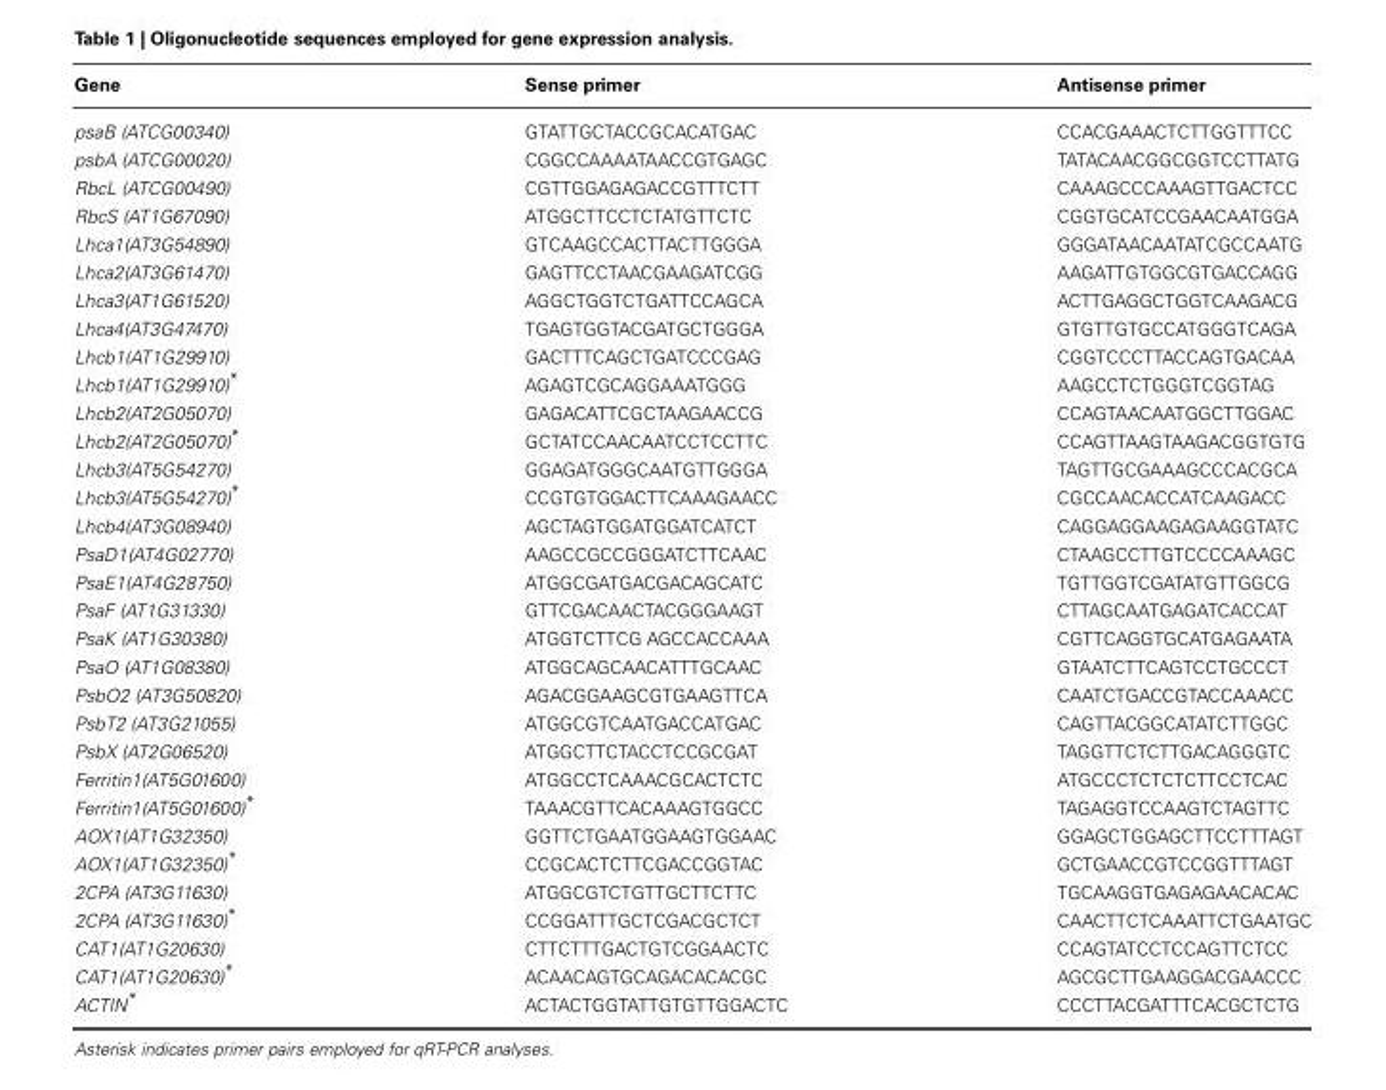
<table><thead><tr><td>Gene</td><td>Sense primer</td><td>Antisense primer</td></tr></thead><tbody><tr><td>psaB (ATCG00340)</td><td>GTATTGCTACCGCACATGAC</td><td>CCACGAAACTCTTGGTTTCC</td></tr><tr><td>psbA (ATCG00020)</td><td>CGGCCAAAATAACCGTGAGC</td><td>TATACAACGGCGGTCCTTATG</td></tr><tr><td>RbcL (ATCG00490)</td><td>CGTTGGAGAGACCGTTTCTT</td><td>CAAAGCCCAAAGTTGACTCC</td></tr><tr><td>RbcS (AT1G67090)</td><td>ATGGCTTCCTCTATGTTCTC</td><td>CGGTGCATCCGAACAATGGA</td></tr><tr><td>Lhca1(AT3G54890)</td><td>GTCAAGCCACTTACTTGGGA</td><td>GGGATAACAATATCGCCAATG</td></tr><tr><td>Lhca2(AT3G61470)</td><td>GAGTTCCTAACGAAGATCGG</td><td>AAGATTGTGGCGTGACCAGG</td></tr><tr><td>Lhca3(AT1G61520)</td><td>AGGCTGGTCTGATTCCAGCA</td><td>ACTTGAGGCTGGTCAAGACG</td></tr><tr><td>Lhca4(AT3G47470)</td><td>TGAGTGGTACGATGCTGGGA</td><td>GTGTTGTGCCATGGGTCAGA</td></tr><tr><td>Lhcb1(AT1G29910)</td><td>GACTTTCAGCTGATCCCGAG</td><td>CGGTCCCTTACCAGTGACAA</td></tr><tr><td>Lhcb1(AT1G29910)*</td><td>AGAGTCGCAGGAAATGGG</td><td>AAGCCTCTGGGTCGGTAG</td></tr><tr><td>Lhcb2(AT2G05070)</td><td>GAGACATTCGCTAAGAACCG</td><td>CCAGTAACAATGGCTTGGAC</td></tr><tr><td>Lhcb2(AT2G05070)*</td><td>GCTATCCAACAATCCTCCTTC</td><td>CCAGTTAAGTAAGACGGTGTG</td></tr><tr><td>Lhcb3(AT5G54270)</td><td>GGAGATGGGCAATGTTGGGA</td><td>TAGTTGCGAAAGCCCACGCA</td></tr><tr><td>Lhcb3(AT5G54270)*</td><td>CCGTGTGGACTTCAAAGAACC</td><td>CGCCAACACCATCAAGACC</td></tr><tr><td>Lhcb4(AT3G08940)</td><td>AGCTAGTGGATGGATCATCT</td><td>CAGGAGGAAGAGAAGGTATC</td></tr><tr><td>PsaD1(AT4G02770)</td><td>AAGCCGCCGGGATCTTCAAC</td><td>CTAAGCCTTGTCCCCAAAGC</td></tr><tr><td>PsaE1(AT4G28750)</td><td>ATGGCGATGACGACAGCATC</td><td>TGTTGGTCGATATGTTGGCG</td></tr><tr><td>PsaF (AT1G31330)</td><td>GTTCGACAACTACGGGAAGT</td><td>CTTAGCAATGAGATCACCAT</td></tr><tr><td>PsaK (AT1G30380)</td><td>ATGGTCTTCG AGCCACCAAA</td><td>CGTTCAGGTGCATGAGAATA</td></tr><tr><td>PsaO (AT1G08380)</td><td>ATGGCAGCAACATTTGCAAC</td><td>GTAATCTTCAGTCCTGCCCT</td></tr><tr><td>PsbO2 (AT3G50820)</td><td>AGACGGAAGCGTGAAGTTCA</td><td>CAATCTGACCGTACCAAACC</td></tr><tr><td>PsbT2 (AT3G21055)</td><td>ATGGCGTCAATGACCATGAC</td><td>CAGTTACGGCATATCTTGGC</td></tr><tr><td>PsbX (AT2G06520)</td><td>ATGGCTTCTACCTCCGCGAT</td><td>TAGGTTCTCTTGACAGGGTC</td></tr><tr><td>Ferritin1(AT5G01600)</td><td>ATGGCCTCAAACGCACTCTC</td><td>ATGCCCTCTCTCTTCCTCAC</td></tr><tr><td>Ferritin1(AT5G01600)*</td><td>TAAACGTTCACAAAGTGGCC</td><td>TAGAGGTCCAAGTCTAGTTC</td></tr><tr><td>AOX1(AT1G32350)</td><td>GGTTCTGAATGGAAGTGGAAC</td><td>GGAGCTGGAGCTTCCTTTAGT</td></tr><tr><td>AOX1(AT1G32350)*</td><td>CCGCACTCTTCGACCGGTAC</td><td>GCTGAACCGTCCGGTTTAGT</td></tr><tr><td>2CPA (AT3G11630)</td><td>ATGGCGTCTGTTGCTTCTTC</td><td>TGCAAGGTGAGAGAACACAC</td></tr><tr><td>2CPA (AT3G11630)*</td><td>CCGGATTTGCTCGACGCTCT</td><td>CAACTTCTCAAATTCTGAATGC</td></tr><tr><td>CAT1(AT1G20630)</td><td>CTTCTTTGACTGTCGGAACTC</td><td>CCAGTATCCTCCAGTTCTCC</td></tr><tr><td>CAT1(AT1G20630)*</td><td>ACAACAGTGCAGACACACGC</td><td>AGCGCTTGAAGGACGAACCC</td></tr><tr><td>ACTIN*</td><td>ACTACTGGTATTGTGTTGGACTC</td><td>CCCTTACGATTTCACGCTCTG</td></tr></tbody></table>